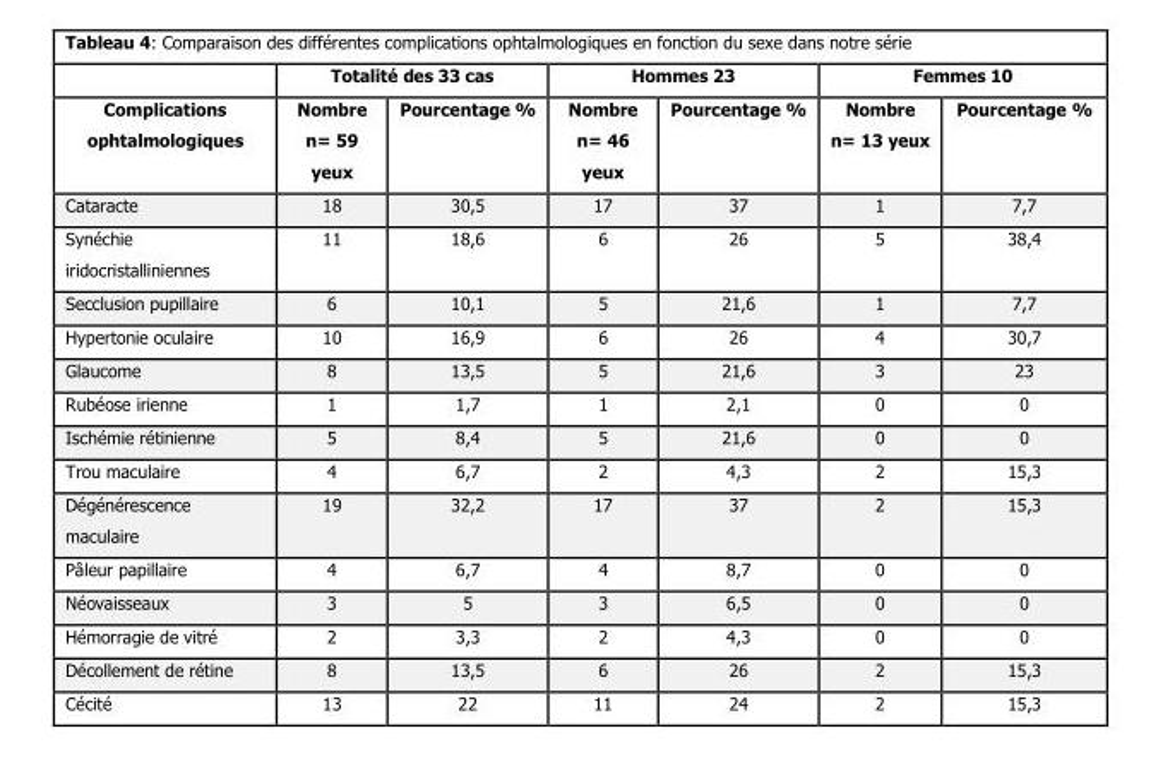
<table><thead><tr><td rowspan="2">Complications ophtalmologiques</td><td colspan="2">Totalité des 33 cas</td><td colspan="2">Hommes 23</td><td colspan="2">Femmes 10</td></tr><tr><td>Nombre n= 59 yeux</td><td>Pourcentage %</td><td>Nombre n= 46 yeux</td><td>Pourcentage %</td><td>Nombre n= 13 yeux</td><td>Pourcentage %</td></tr></thead><tbody><tr><td>Cataracte</td><td>18</td><td>30,5</td><td>17</td><td>37</td><td>1</td><td>7,7</td></tr><tr><td>Synéchie iridocristalliniennes</td><td>11</td><td>18,6</td><td>6</td><td>26</td><td>5</td><td>38,4</td></tr><tr><td>Secclusion pupillaire</td><td>6</td><td>10,1</td><td>5</td><td>21,6</td><td>1</td><td>7,7</td></tr><tr><td>Hypertonie oculaire</td><td>10</td><td>16,9</td><td>6</td><td>26</td><td>4</td><td>30,7</td></tr><tr><td>Glaucome</td><td>8</td><td>13,5</td><td>5</td><td>21,6</td><td>3</td><td>23</td></tr><tr><td>Rubéose irienne</td><td>1</td><td>1,7</td><td>1</td><td>2,1</td><td>0</td><td>0</td></tr><tr><td>Ischémie rétinienne</td><td>5</td><td>8,4</td><td>5</td><td>21,6</td><td>0</td><td>0</td></tr><tr><td>Trou maculaire</td><td>4</td><td>6,7</td><td>2</td><td>4,3</td><td>2</td><td>15,3</td></tr><tr><td>Dégénérescence maculaire</td><td>19</td><td>32,2</td><td>17</td><td>37</td><td>2</td><td>15,3</td></tr><tr><td>Pâleur papillaire</td><td>4</td><td>6,7</td><td>4</td><td>8,7</td><td>0</td><td>0</td></tr><tr><td>Néovaisseaux</td><td>3</td><td>5</td><td>3</td><td>6,5</td><td>0</td><td>0</td></tr><tr><td>Hémorragie de vitré</td><td>2</td><td>3,3</td><td>2</td><td>4,3</td><td>0</td><td>0</td></tr><tr><td>Décollement de rétine</td><td>8</td><td>13,5</td><td>6</td><td>26</td><td>2</td><td>15,3</td></tr><tr><td>Cécité</td><td>13</td><td>22</td><td>11</td><td>24</td><td>2</td><td>15,3</td></tr></tbody></table>